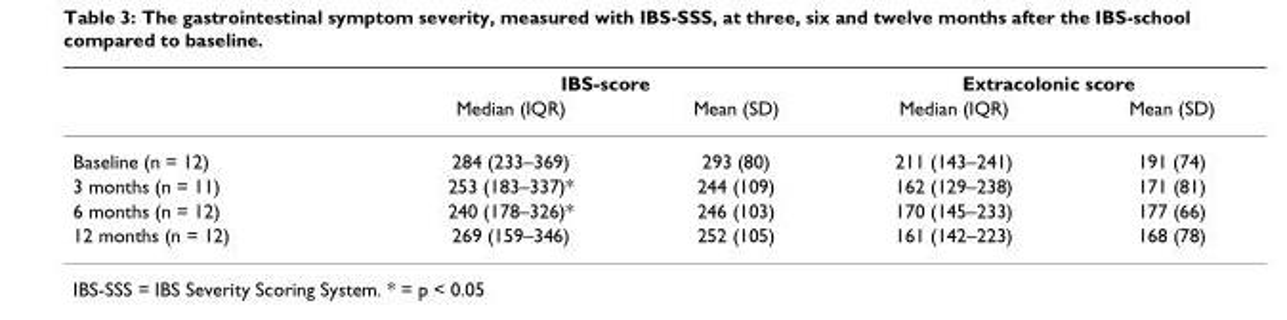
<table><thead><tr><td rowspan="2"></td><td colspan="2">IBS-score</td><td colspan="2">Extracolonic score</td></tr><tr><td>Median (IQR)</td><td>Mean (SD)</td><td>Median (IQR)</td><td>Mean (SD)</td></tr></thead><tbody><tr><td>Baseline (n = 12)</td><td>284 (233–369)</td><td>293 (80)</td><td>211 (143–241)</td><td>191 (74)</td></tr><tr><td>3 months (n = 11)</td><td>253 (183–337)*</td><td>244 (109)</td><td>162 (129–238)</td><td>171 (81)</td></tr><tr><td>6 months (n = 12)</td><td>240 (178–326)*</td><td>246 (103)</td><td>170 (145–233)</td><td>177 (66)</td></tr><tr><td>12 months (n = 12)</td><td>269 (159–346)</td><td>252 (105)</td><td>161 (142–223)</td><td>168 (78)</td></tr></tbody></table>